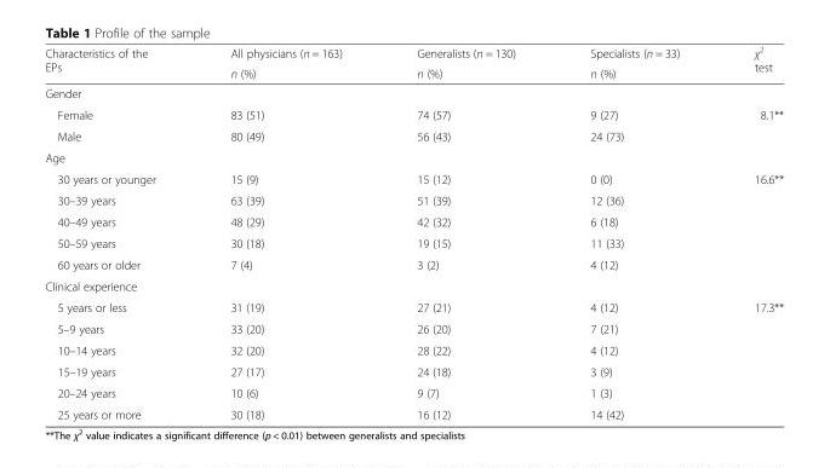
<table><thead><tr><td rowspan="2">Characteristics of the EPs</td><td rowspan="2">All physicians (n = 163) n (%)</td><td rowspan="2">Generalists (n = 130) n (%)</td><td rowspan="2">Specialists (n = 33) n (%)</td><td rowspan="2">χ<sup>2</sup> test</td></tr><tr></tr></thead><tbody><tr><td colspan="5">Gender</td></tr><tr><td>Female</td><td>83 (51)</td><td>74 (57)</td><td>9 (27)</td><td rowspan="2">8.1**</td></tr><tr><td>Male</td><td>80 (49)</td><td>56 (43)</td><td>24 (73)</td></tr><tr><td colspan="5">Age</td></tr><tr><td>30 years or younger</td><td>15 (9)</td><td>15 (12)</td><td>0 (0)</td><td rowspan="5">16.6**</td></tr><tr><td>30–39 years</td><td>63 (39)</td><td>51 (39)</td><td>12 (36)</td></tr><tr><td>40–49 years</td><td>48 (29)</td><td>42 (32)</td><td>6 (18)</td></tr><tr><td>50–59 years</td><td>30 (18)</td><td>19 (15)</td><td>11 (33)</td></tr><tr><td>60 years or older</td><td>7 (4)</td><td>3 (2)</td><td>4 (12)</td></tr><tr><td colspan="5">Clinical experience</td></tr><tr><td>5 years or less</td><td>31 (19)</td><td>27 (21)</td><td>4 (12)</td><td rowspan="6">17.3**</td></tr><tr><td>5–9 years</td><td>33 (20)</td><td>26 (20)</td><td>7 (21)</td></tr><tr><td>10–14 years</td><td>32 (20)</td><td>28 (22)</td><td>4 (12)</td></tr><tr><td>15–19 years</td><td>27 (17)</td><td>24 (18)</td><td>3 (9)</td></tr><tr><td>20–24 years</td><td>10 (6)</td><td>9 (7)</td><td>1 (3)</td></tr><tr><td>25 years or more</td><td>30 (18)</td><td>16 (12)</td><td>14 (42)</td></tr></tbody></table>